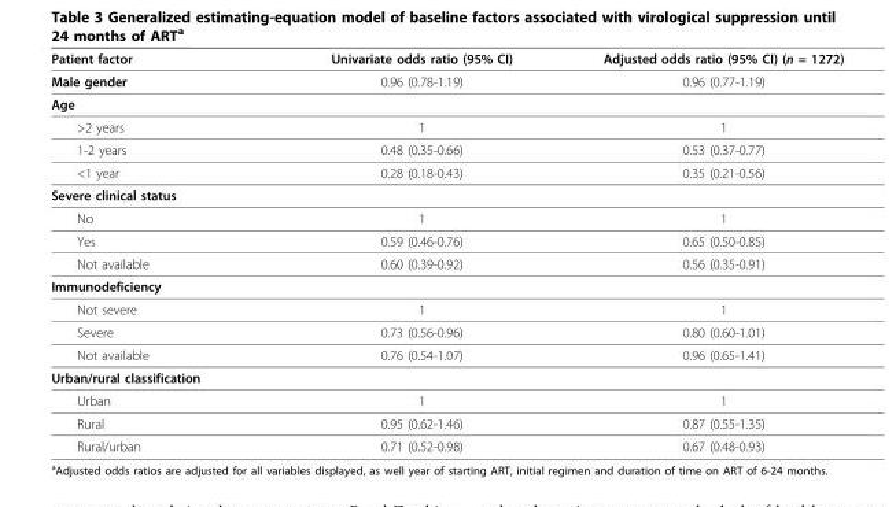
<table><thead><tr><td>Patient factor</td><td>Univariate odds ratio (95% CI)</td><td>Adjusted odds ratio (95% CI) (n = 1272)</td></tr></thead><tbody><tr><td>Male gender</td><td>0.96 (0.78-1.19)</td><td>0.96 (0.77-1.19)</td></tr><tr><td colspan="3">Age</td></tr><tr><td>&gt;2 years</td><td>1</td><td>1</td></tr><tr><td>1-2 years</td><td>0.48 (0.35-0.66)</td><td>0.53 (0.37-0.77)</td></tr><tr><td>&lt;1 year</td><td>0.28 (0.18-0.43)</td><td>0.35 (0.21-0.56)</td></tr><tr><td colspan="3">Severe clinical status</td></tr><tr><td>No</td><td>1</td><td>1</td></tr><tr><td>Yes</td><td>0.59 (0.46-0.76)</td><td>0.65 (0.50-0.85)</td></tr><tr><td>Not available</td><td>0.60 (0.39-0.92)</td><td>0.56 (0.35-0.91)</td></tr><tr><td colspan="3">Immunodeficiency</td></tr><tr><td>Not severe</td><td>1</td><td>1</td></tr><tr><td>Severe</td><td>0.73 (0.56-0.96)</td><td>0.80 (0.60-1.01)</td></tr><tr><td>Not available</td><td>0.76 (0.54-1.07)</td><td>0.96 (0.65-1.41)</td></tr><tr><td colspan="3">Urban/rural classification</td></tr><tr><td>Urban</td><td>1</td><td>1</td></tr><tr><td>Rural</td><td>0.95 (0.62-1.46)</td><td>0.87 (0.55-1.35)</td></tr><tr><td>Rural/urban</td><td>0.71 (0.52-0.98)</td><td>0.67 (0.48-0.93)</td></tr></tbody></table>